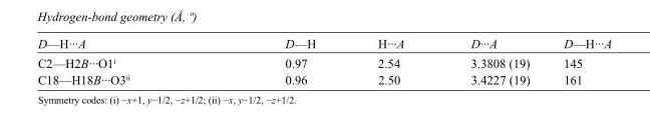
<table><tbody><tr><td>D—H···A</td><td>D—H</td><td>H···A</td><td>D···A</td><td>D—H···A</td></tr><tr><td>C2—H2B···O1<sup>i</sup></td><td>0.97</td><td>2.54</td><td>3.3808 (19)</td><td>145</td></tr><tr><td>C18—H18B···O3<sup>ii</sup></td><td>0.96</td><td>2.50</td><td>3.4227 (19)</td><td>161</td></tr></tbody></table>